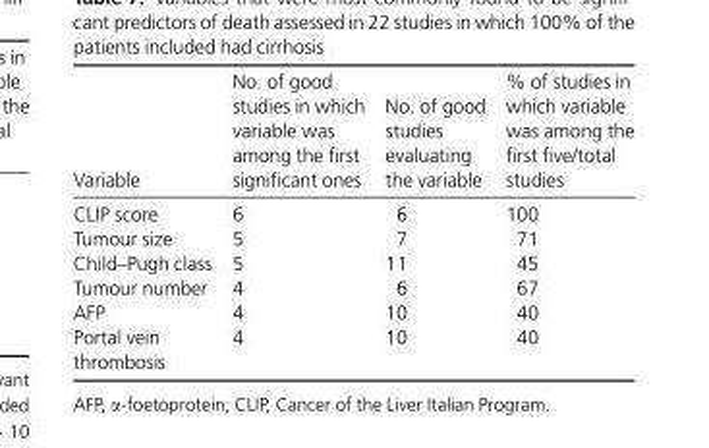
<table><thead><tr><td>Variable</td><td>No. of good studies in which variable was among the first significant ones</td><td>No. of good studies evaluating the variable</td><td>% of studies in which variable was among the first five/total studies</td></tr></thead><tbody><tr><td>CLIP score</td><td>6</td><td>6</td><td>100</td></tr><tr><td>Tumour size</td><td>5</td><td>7</td><td>71</td></tr><tr><td>Child–Pugh class</td><td>5</td><td>11</td><td>45</td></tr><tr><td>Tumour number</td><td>4</td><td>6</td><td>67</td></tr><tr><td>AFP</td><td>4</td><td>10</td><td>40</td></tr><tr><td>Portal vein thrombosis</td><td>4</td><td>10</td><td>40</td></tr></tbody></table>